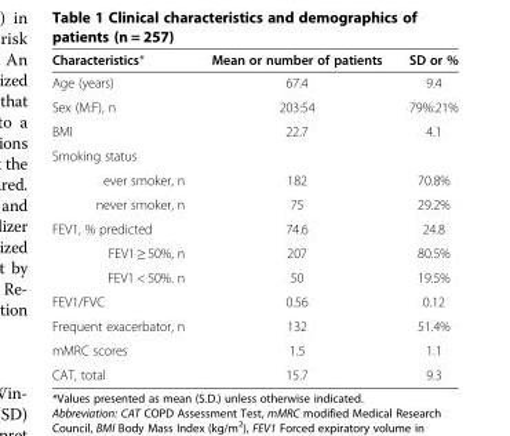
<table><thead><tr><td>Characteristics*</td><td>Mean or number of patients</td><td>SD or %</td></tr></thead><tbody><tr><td>Age (years)</td><td>67.4</td><td>9.4</td></tr><tr><td>Sex (M:F), n</td><td>203:54</td><td>79%:21%</td></tr><tr><td>BMI</td><td>22.7</td><td>4.1</td></tr><tr><td colspan="3">Smoking status</td></tr><tr><td>ever smoker, n</td><td>182</td><td>70.8%</td></tr><tr><td>never smoker, n</td><td>75</td><td>29.2%</td></tr><tr><td>FEV1, % predicted</td><td>74.6</td><td>24.8</td></tr><tr><td>FEV1 ≥ 50%, n</td><td>207</td><td>80.5%</td></tr><tr><td>FEV1 &lt; 50%. n</td><td>50</td><td>19.5%</td></tr><tr><td>FEV1/FVC</td><td>0.56</td><td>0.12</td></tr><tr><td>Frequent exacerbator, n</td><td>132</td><td>51.4%</td></tr><tr><td>mMRC scores</td><td>1.5</td><td>1.1</td></tr><tr><td>CAT, total</td><td>15.7</td><td>9.3</td></tr></tbody></table>